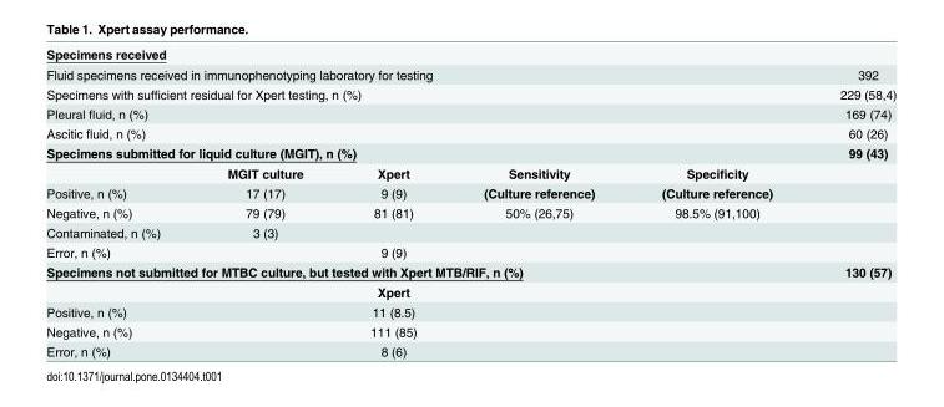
<table><tbody><tr><td colspan="6">Specimens received</td></tr><tr><td colspan="5">Fluid specimens received in immunophenotyping laboratory for testing</td><td>392</td></tr><tr><td colspan="5">Specimens with sufficient residual for Xpert testing, n (%)</td><td>229 (58,4)</td></tr><tr><td colspan="5">Pleural fluid, n (%)</td><td>169 (74)</td></tr><tr><td colspan="5">Ascitic fluid, n (%)</td><td>60 (26)</td></tr><tr><td colspan="5">Specimens submitted for liquid culture (MGIT), n (%)</td><td>99 (43)</td></tr><tr><td></td><td>MGIT culture</td><td>Xpert</td><td>Sensitivity</td><td>Specificity</td><td></td></tr><tr><td>Positive, n (%)</td><td>17 (17)</td><td>9 (9)</td><td>(Culture reference)</td><td>(Culture reference)</td><td></td></tr><tr><td>Negative, n (%)</td><td>79 (79)</td><td>81 (81)</td><td>50% (26,75)</td><td>98.5% (91,100)</td><td></td></tr><tr><td>Contaminated, n (%)</td><td>3 (3)</td><td></td><td></td><td></td><td></td></tr><tr><td>Error, n (%)</td><td></td><td>9 (9)</td><td></td><td></td><td></td></tr><tr><td colspan="5">Specimens not submitted for MTBC culture, but tested with Xpert MTB/RIF, n (%)</td><td>130 (57)</td></tr><tr><td></td><td></td><td>Xpert</td><td></td><td></td><td></td></tr><tr><td>Positive, n (%)</td><td></td><td>11 (8.5)</td><td></td><td></td><td></td></tr><tr><td>Negative, n (%)</td><td></td><td>111 (85)</td><td></td><td></td><td></td></tr><tr><td>Error, n (%)</td><td></td><td>8 (6)</td><td></td><td></td><td></td></tr></tbody></table>